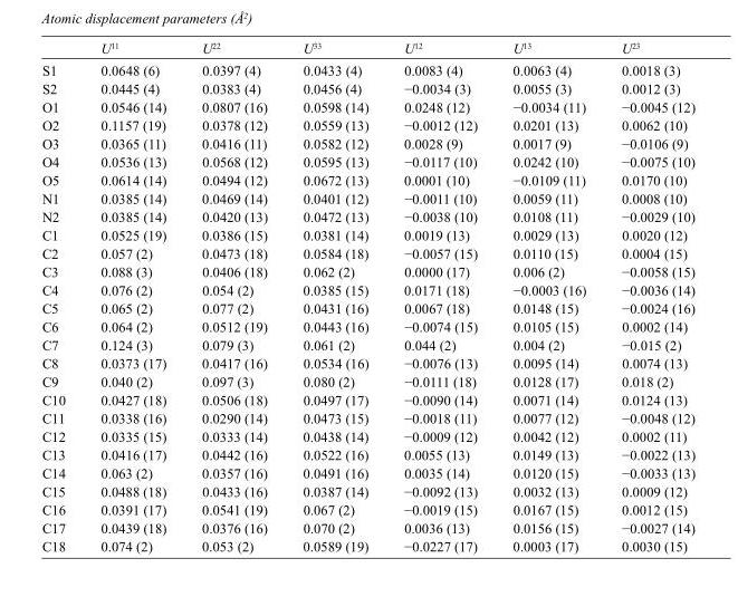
<table><thead><tr><td></td><td>U<sup>11</sup></td><td>U<sup>22</sup></td><td>U<sup>33</sup></td><td>U<sup>12</sup></td><td>U<sup>13</sup></td><td>U<sup>23</sup></td></tr></thead><tbody><tr><td>S1</td><td>0.0648 (6)</td><td>0.0397 (4)</td><td>0.0433 (4)</td><td>0.0083 (4)</td><td>0.0063 (4)</td><td>0.0018 (3)</td></tr><tr><td>S2</td><td>0.0445 (4)</td><td>0.0383 (4)</td><td>0.0456 (4)</td><td>−0.0034 (3)</td><td>0.0055 (3)</td><td>0.0012 (3)</td></tr><tr><td>O1</td><td>0.0546 (14)</td><td>0.0807 (16)</td><td>0.0598 (14)</td><td>0.0248 (12)</td><td>−0.0034 (11)</td><td>−0.0045 (12)</td></tr><tr><td>O2</td><td>0.1157 (19)</td><td>0.0378 (12)</td><td>0.0559 (13)</td><td>−0.0012 (12)</td><td>0.0201 (13)</td><td>0.0062 (10)</td></tr><tr><td>O3</td><td>0.0365 (11)</td><td>0.0416 (11)</td><td>0.0582 (12)</td><td>0.0028 (9)</td><td>0.0017 (9)</td><td>−0.0106 (9)</td></tr><tr><td>O4</td><td>0.0536 (13)</td><td>0.0568 (12)</td><td>0.0595 (13)</td><td>−0.0117 (10)</td><td>0.0242 (10)</td><td>−0.0075 (10)</td></tr><tr><td>O5</td><td>0.0614 (14)</td><td>0.0494 (12)</td><td>0.0672 (13)</td><td>0.0001 (10)</td><td>−0.0109 (11)</td><td>0.0170 (10)</td></tr><tr><td>N1</td><td>0.0385 (14)</td><td>0.0469 (14)</td><td>0.0401 (12)</td><td>−0.0011 (10)</td><td>0.0059 (11)</td><td>0.0008 (10)</td></tr><tr><td>N2</td><td>0.0385 (14)</td><td>0.0420 (13)</td><td>0.0472 (13)</td><td>−0.0038 (10)</td><td>0.0108 (11)</td><td>−0.0029 (10)</td></tr><tr><td>C1</td><td>0.0525 (19)</td><td>0.0386 (15)</td><td>0.0381 (14)</td><td>0.0019 (13)</td><td>0.0029 (13)</td><td>0.0020 (12)</td></tr><tr><td>C2</td><td>0.057 (2)</td><td>0.0473 (18)</td><td>0.0584 (18)</td><td>−0.0057 (15)</td><td>0.0110 (15)</td><td>0.0004 (15)</td></tr><tr><td>C3</td><td>0.088 (3)</td><td>0.0406 (18)</td><td>0.062 (2)</td><td>0.0000 (17)</td><td>0.006 (2)</td><td>−0.0058 (15)</td></tr><tr><td>C4</td><td>0.076 (2)</td><td>0.054 (2)</td><td>0.0385 (15)</td><td>0.0171 (18)</td><td>−0.0003 (16)</td><td>−0.0036 (14)</td></tr><tr><td>C5</td><td>0.065 (2)</td><td>0.077 (2)</td><td>0.0431 (16)</td><td>0.0067 (18)</td><td>0.0148 (15)</td><td>−0.0024 (16)</td></tr><tr><td>C6</td><td>0.064 (2)</td><td>0.0512 (19)</td><td>0.0443 (16)</td><td>−0.0074 (15)</td><td>0.0105 (15)</td><td>0.0002 (14)</td></tr><tr><td>C7</td><td>0.124 (3)</td><td>0.079 (3)</td><td>0.061 (2)</td><td>0.044 (2)</td><td>0.004 (2)</td><td>−0.015 (2)</td></tr><tr><td>C8</td><td>0.0373 (17)</td><td>0.0417 (16)</td><td>0.0534 (16)</td><td>−0.0076 (13)</td><td>0.0095 (14)</td><td>0.0074 (13)</td></tr><tr><td>C9</td><td>0.040 (2)</td><td>0.097 (3)</td><td>0.080 (2)</td><td>−0.0111 (18)</td><td>0.0128 (17)</td><td>0.018 (2)</td></tr><tr><td>C10</td><td>0.0427 (18)</td><td>0.0506 (18)</td><td>0.0497 (17)</td><td>−0.0090 (14)</td><td>0.0071 (14)</td><td>0.0124 (13)</td></tr><tr><td>C11</td><td>0.0338 (16)</td><td>0.0290 (14)</td><td>0.0473 (15)</td><td>−0.0018 (11)</td><td>0.0077 (12)</td><td>−0.0048 (12)</td></tr><tr><td>C12</td><td>0.0335 (15)</td><td>0.0333 (14)</td><td>0.0438 (14)</td><td>−0.0009 (12)</td><td>0.0042 (12)</td><td>0.0002 (11)</td></tr><tr><td>C13</td><td>0.0416 (17)</td><td>0.0442 (16)</td><td>0.0522 (16)</td><td>0.0055 (13)</td><td>0.0149 (13)</td><td>−0.0022 (13)</td></tr><tr><td>C14</td><td>0.063 (2)</td><td>0.0357 (16)</td><td>0.0491 (16)</td><td>0.0035 (14)</td><td>0.0120 (15)</td><td>−0.0033 (13)</td></tr><tr><td>C15</td><td>0.0488 (18)</td><td>0.0433 (16)</td><td>0.0387 (14)</td><td>−0.0092 (13)</td><td>0.0032 (13)</td><td>0.0009 (12)</td></tr><tr><td>C16</td><td>0.0391 (17)</td><td>0.0541 (19)</td><td>0.067 (2)</td><td>−0.0019 (15)</td><td>0.0167 (15)</td><td>0.0012 (15)</td></tr><tr><td>C17</td><td>0.0439 (18)</td><td>0.0376 (16)</td><td>0.070 (2)</td><td>0.0036 (13)</td><td>0.0156 (15)</td><td>−0.0027 (14)</td></tr><tr><td>C18</td><td>0.074 (2)</td><td>0.053 (2)</td><td>0.0589 (19)</td><td>−0.0227 (17)</td><td>0.0003 (17)</td><td>0.0030 (15)</td></tr></tbody></table>